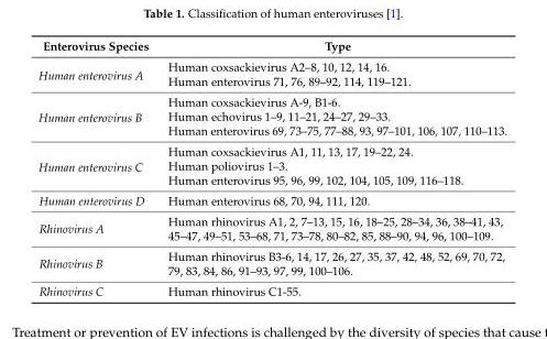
<table><thead><tr><td>Enterovirus Species</td><td>Type</td></tr></thead><tbody><tr><td rowspan="2">Human enterovirus A</td><td>Human coxsackievirus A2–8, 10, 12, 14, 16.</td></tr><tr><td>Human enterovirus 71, 76, 89–92, 114, 119–121.</td></tr><tr><td rowspan="3">Human enterovirus B</td><td>Human coxsackievirus A-9, B1-6.</td></tr><tr><td>Human echovirus 1–9, 11–21, 24–27, 29–33.</td></tr><tr><td>Human enterovirus 69, 73–75, 77–88, 93, 97–101, 106, 107, 110–113.</td></tr><tr><td rowspan="3">Human enterovirus C</td><td>Human coxsackievirus A1, 11, 13, 17, 19–22, 24.</td></tr><tr><td>Human poliovirus 1–3.</td></tr><tr><td>Human enterovirus 95, 96, 99, 102, 104, 105, 109, 116–118.</td></tr><tr><td>Human enterovirus D</td><td>Human enterovirus 68, 70, 94, 111, 120.</td></tr><tr><td>Rhinovirus A</td><td>Human rhinovirus A1, 2, 7–13, 15, 16, 18–25, 28–34, 36, 38–41, 43, 45–47, 49–51, 53–68, 71, 73–78, 80–82, 85, 88–90, 94, 96, 100–109.</td></tr><tr><td>Rhinovirus B</td><td>Human rhinovirus B3-6, 14, 17, 26, 27, 35, 37, 42, 48, 52, 69, 70, 72, 79, 83, 84, 86, 91–93, 97, 99, 100–106.</td></tr><tr><td>Rhinovirus C</td><td>Human rhinovirus C1-55.</td></tr></tbody></table>